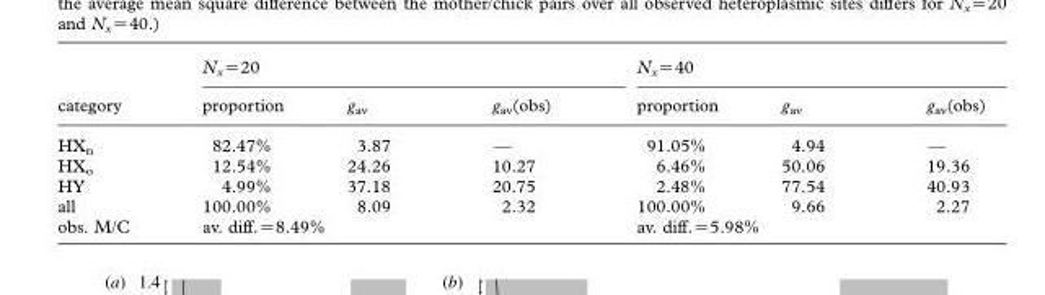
<table><thead><tr><td rowspan="2">category</td><td colspan="3">N<sub>x</sub>=20</td><td colspan="3">N<sub>x</sub>=40</td></tr><tr><td>proportion</td><td>g<sub>av</sub></td><td>g<sub>av</sub>(obs)</td><td>proportion</td><td>g<sub>av</sub></td><td>g<sub>av</sub>(obs)</td></tr></thead><tbody><tr><td>HX<sub>n</sub></td><td>82.47%</td><td>3.87</td><td>—</td><td>91.05%</td><td>4.94</td><td>—</td></tr><tr><td>HX<sub>o</sub></td><td>12.54%</td><td>24.26</td><td>10.27</td><td>6.46%</td><td>50.06</td><td>19.36</td></tr><tr><td>HY</td><td>4.99%</td><td>37.18</td><td>20.75</td><td>2.48%</td><td>77.54</td><td>40.93</td></tr><tr><td>all</td><td>100.00%</td><td>8.09</td><td>2.32</td><td>100.00%</td><td>9.66</td><td>2.27</td></tr><tr><td>obs. M/C</td><td colspan="3">av. diff.=8.49%</td><td colspan="3">av. diff.=5.98%</td></tr></tbody></table>